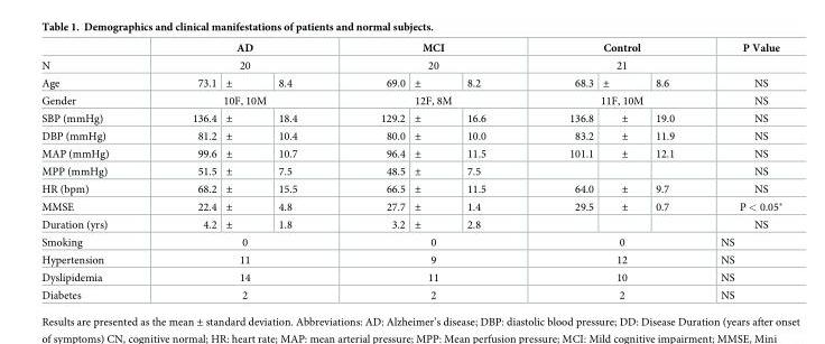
<table><thead><tr><td rowspan="3">N Age</td><td rowspan="2" colspan="3">AD 20</td><td rowspan="2" colspan="3">MCI 20</td><td rowspan="2" colspan="3">Control 21</td><td rowspan="3">P Value NS</td></tr><tr></tr><tr><td>73.1</td><td>±</td><td>8.4</td><td>69.0</td><td>±</td><td>8.2</td><td>68.3</td><td>±</td><td>8.6</td></tr></thead><tbody><tr><td>Gender</td><td colspan="3">10F, 10M</td><td colspan="3">12F, 8M</td><td colspan="3">11F, 10M</td><td>NS</td></tr><tr><td>SBP (mmHg)</td><td>136.4</td><td>±</td><td>18.4</td><td>129.2</td><td>±</td><td>16.6</td><td>136.8</td><td>±</td><td>19.0</td><td>NS</td></tr><tr><td>DBP (mmHg)</td><td>81.2</td><td>±</td><td>10.4</td><td>80.0</td><td>±</td><td>10.0</td><td>83.2</td><td>±</td><td>11.9</td><td>NS</td></tr><tr><td>MAP (mmHg)</td><td>99.6</td><td>±</td><td>10.7</td><td>96.4</td><td>±</td><td>11.5</td><td>101.1</td><td>±</td><td>12.1</td><td>NS</td></tr><tr><td>MPP (mmHg)</td><td>51.5</td><td>±</td><td>7.5</td><td>48.5</td><td>±</td><td>7.5</td><td></td><td></td><td></td><td>NS</td></tr><tr><td>HR (bpm)</td><td>68.2</td><td>±</td><td>15.5</td><td>66.5</td><td>±</td><td>11.5</td><td>64.0</td><td>±</td><td>9.7</td><td>NS</td></tr><tr><td>MMSE</td><td>22.4</td><td>±</td><td>4.8</td><td>27.7</td><td>±</td><td>1.4</td><td>29.5</td><td>±</td><td>0.7</td><td>P &lt; 0.05*</td></tr><tr><td>Duration (yrs)</td><td>4.2</td><td>±</td><td>1.8</td><td>3.2</td><td>±</td><td>2.8</td><td></td><td></td><td></td><td>NS</td></tr><tr><td>Smoking</td><td colspan="3">0</td><td colspan="3">0</td><td colspan="3">0</td><td>NS</td></tr><tr><td>Hypertension</td><td colspan="3">11</td><td colspan="3">9</td><td colspan="3">12</td><td>NS</td></tr><tr><td>Dyslipidemia</td><td colspan="3">14</td><td colspan="3">11</td><td colspan="3">10</td><td>NS</td></tr><tr><td>Diabetes</td><td colspan="3">2</td><td colspan="3">2</td><td colspan="3">2</td><td>NS</td></tr></tbody></table>